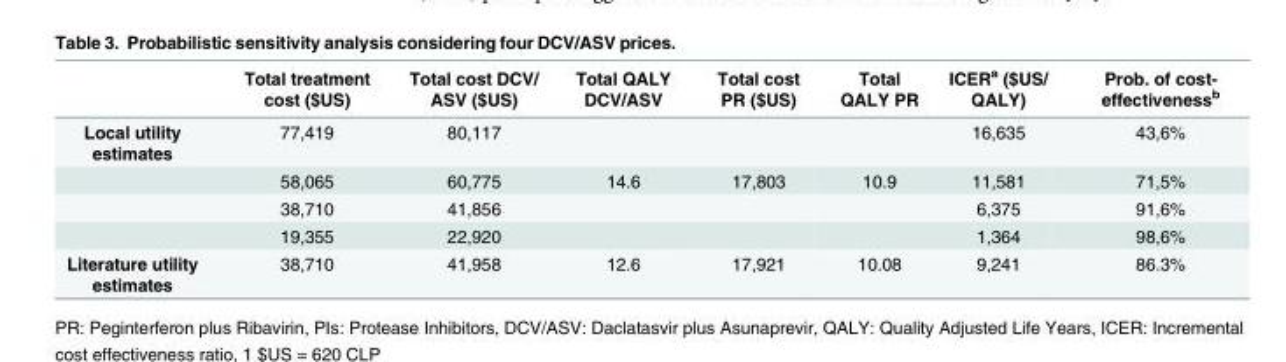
<table><thead><tr><td></td><td>Total treatment cost ($US)</td><td>Total cost DCV/ ASV ($US)</td><td>Total QALY DCV/ASV</td><td>Total cost PR ($US)</td><td>Total QALY PR</td><td>ICER<sup>a</sup> ($US/ QALY)</td><td>Prob. of cost- effectiveness<sup>b</sup></td></tr></thead><tbody><tr><td rowspan="4">Local utility estimates</td><td>77,419</td><td>80,117</td><td></td><td></td><td></td><td>16,635</td><td>43,6%</td></tr><tr><td>58,065</td><td>60,775</td><td>14.6</td><td>17,803</td><td>10.9</td><td>11,581</td><td>71,5%</td></tr><tr><td>38,710</td><td>41,856</td><td></td><td></td><td></td><td>6,375</td><td>91,6%</td></tr><tr><td>19,355</td><td>22,920</td><td></td><td></td><td></td><td>1,364</td><td>98,6%</td></tr><tr><td>Literature utility estimates</td><td>38,710</td><td>41,958</td><td>12.6</td><td>17,921</td><td>10.08</td><td>9,241</td><td>86.3%</td></tr></tbody></table>